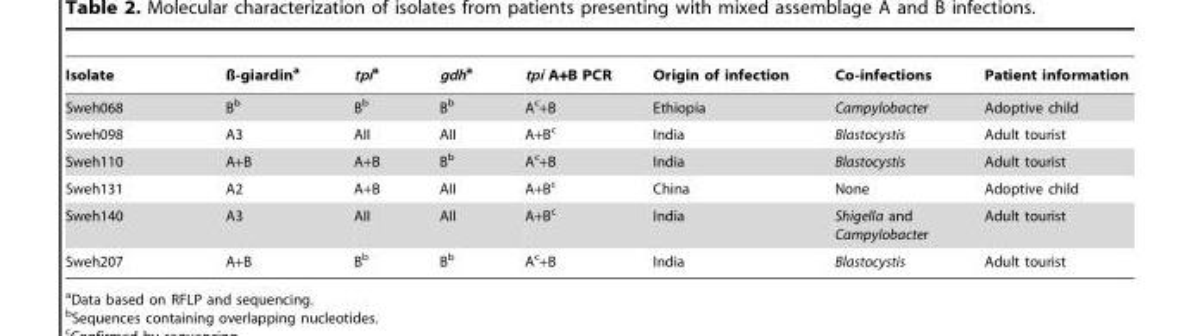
<table><thead><tr><td>Isolate</td><td>ß-giardin<sup>a</sup></td><td>tpia</td><td>gdha</td><td>tpi A+B PCR</td><td>Origin of infection</td><td>Co-infections</td><td>Patient information</td></tr></thead><tbody><tr><td>Sweh068</td><td>B<sup>b</sup></td><td>B<sup>b</sup></td><td>B<sup>b</sup></td><td>A<sup>c</sup>+B</td><td>Ethiopia</td><td>Campylobacter</td><td>Adoptive child</td></tr><tr><td>Sweh098</td><td>A3</td><td>AII</td><td>AII</td><td>A+B<sup>c</sup></td><td>India</td><td>Blastocystis</td><td>Adult tourist</td></tr><tr><td>Sweh110</td><td>A+B</td><td>A+B</td><td>B<sup>b</sup></td><td>A<sup>c</sup>+B</td><td>India</td><td>Blastocystis</td><td>Adult tourist</td></tr><tr><td>Sweh131</td><td>A2</td><td>A+B</td><td>AII</td><td>A+B<sup>c</sup></td><td>China</td><td>None</td><td>Adoptive child</td></tr><tr><td>Sweh140</td><td>A3</td><td>AII</td><td>AII</td><td>A+B<sup>c</sup></td><td>India</td><td>Shigella and Campylobacter</td><td>Adult tourist</td></tr><tr><td>Sweh207</td><td>A+B</td><td>B<sup>b</sup></td><td>B<sup>b</sup></td><td>A<sup>c</sup>+B</td><td>India</td><td>Blastocystis</td><td>Adult tourist</td></tr></tbody></table>